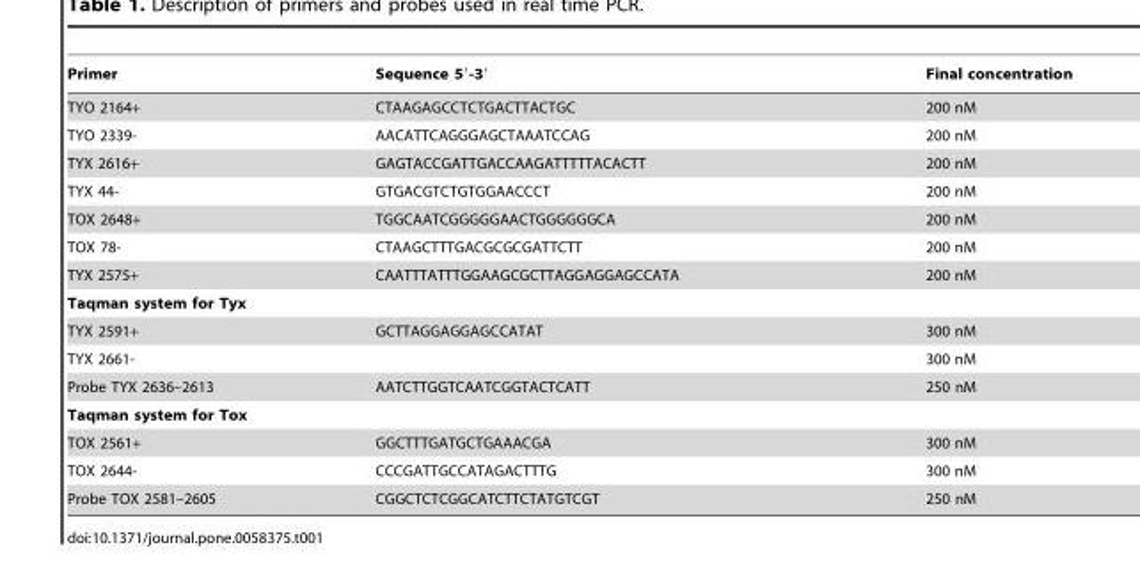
<table><thead><tr><td>Primer</td><td>Sequence 5′-3′</td><td>Final concentration</td></tr></thead><tbody><tr><td>TYO 2164+</td><td>CTAAGAGCCTCTGACTTACTGC</td><td>200 nM</td></tr><tr><td>TYO 2339-</td><td>AACATTCAGGGAGCTAAATCCAG</td><td>200 nM</td></tr><tr><td>TYX 2616+</td><td>GAGTACCGATTGACCAAGATTTTTACACTT</td><td>200 nM</td></tr><tr><td>TYX 44-</td><td>GTGACGTCTGTGGAACCCT</td><td>200 nM</td></tr><tr><td>TOX 2648+</td><td>TGGCAATCGGGGGAACTGGGGGGCA</td><td>200 nM</td></tr><tr><td>TOX 78-</td><td>CTAAGCTTTGACGCGCGATTCTT</td><td>200 nM</td></tr><tr><td>TYX 2575+</td><td>CAATTTATTTGGAAGCGCTTAGGAGGAGCCATA</td><td>200 nM</td></tr><tr><td colspan="3">Taqman system for Tyx</td></tr><tr><td>TYX 2591+</td><td>GCTTAGGAGGAGCCATAT</td><td>300 nM</td></tr><tr><td>TYX 2661-</td><td></td><td>300 nM</td></tr><tr><td>Probe TYX 2636–2613</td><td>AATCTTGGTCAATCGGTACTCATT</td><td>250 nM</td></tr><tr><td colspan="3">Taqman system for Tox</td></tr><tr><td>TOX 2561+</td><td>GGCTTTGATGCTGAAACGA</td><td>300 nM</td></tr><tr><td>TOX 2644-</td><td>CCCGATTGCCATAGACTTTG</td><td>300 nM</td></tr><tr><td>Probe TOX 2581–2605</td><td>CGGCTCTCGGCATCTTCTATGTCGT</td><td>250 nM</td></tr></tbody></table>